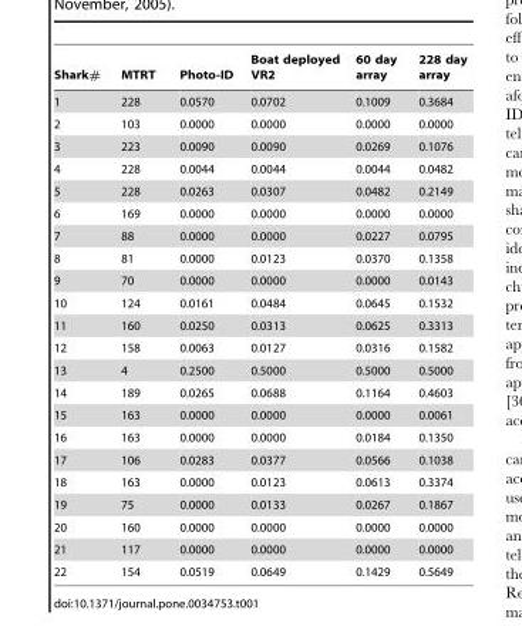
<table><thead><tr><td>Shark#</td><td>MTRT</td><td>Photo-ID</td><td>Boat deployed VR2</td><td>60 day array</td><td>228 day array</td></tr></thead><tbody><tr><td>1</td><td>228</td><td>0.0570</td><td>0.0702</td><td>0.1009</td><td>0.3684</td></tr><tr><td>2</td><td>103</td><td>0.0000</td><td>0.0000</td><td>0.0000</td><td>0.0000</td></tr><tr><td>3</td><td>223</td><td>0.0090</td><td>0.0090</td><td>0.0269</td><td>0.1076</td></tr><tr><td>4</td><td>228</td><td>0.0044</td><td>0.0044</td><td>0.0044</td><td>0.0482</td></tr><tr><td>5</td><td>228</td><td>0.0263</td><td>0.0307</td><td>0.0482</td><td>0.2149</td></tr><tr><td>6</td><td>169</td><td>0.0000</td><td>0.0000</td><td>0.0000</td><td>0.0000</td></tr><tr><td>7</td><td>88</td><td>0.0000</td><td>0.0000</td><td>0.0227</td><td>0.0795</td></tr><tr><td>8</td><td>81</td><td>0.0000</td><td>0.0123</td><td>0.0370</td><td>0.1358</td></tr><tr><td>9</td><td>70</td><td>0.0000</td><td>0.0000</td><td>0.0000</td><td>0.0143</td></tr><tr><td>10</td><td>124</td><td>0.0161</td><td>0.0484</td><td>0.0645</td><td>0.1532</td></tr><tr><td>11</td><td>160</td><td>0.0250</td><td>0.0313</td><td>0.0625</td><td>0.3313</td></tr><tr><td>12</td><td>158</td><td>0.0063</td><td>0.0127</td><td>0.0316</td><td>0.1582</td></tr><tr><td>13</td><td>4</td><td>0.2500</td><td>0.5000</td><td>0.5000</td><td>0.5000</td></tr><tr><td>14</td><td>189</td><td>0.0265</td><td>0.0688</td><td>0.1164</td><td>0.4603</td></tr><tr><td>15</td><td>163</td><td>0.0000</td><td>0.0000</td><td>0.0000</td><td>0.0061</td></tr><tr><td>16</td><td>163</td><td>0.0000</td><td>0.0000</td><td>0.0184</td><td>0.1350</td></tr><tr><td>17</td><td>106</td><td>0.0283</td><td>0.0377</td><td>0.0566</td><td>0.1038</td></tr><tr><td>18</td><td>163</td><td>0.0000</td><td>0.0123</td><td>0.0613</td><td>0.3374</td></tr><tr><td>19</td><td>75</td><td>0.0000</td><td>0.0133</td><td>0.0267</td><td>0.1867</td></tr><tr><td>20</td><td>160</td><td>0.0000</td><td>0.0000</td><td>0.0000</td><td>0.0000</td></tr><tr><td>21</td><td>117</td><td>0.0000</td><td>0.0000</td><td>0.0000</td><td>0.0000</td></tr><tr><td>22</td><td>154</td><td>0.0519</td><td>0.0649</td><td>0.1429</td><td>0.5649</td></tr></tbody></table>